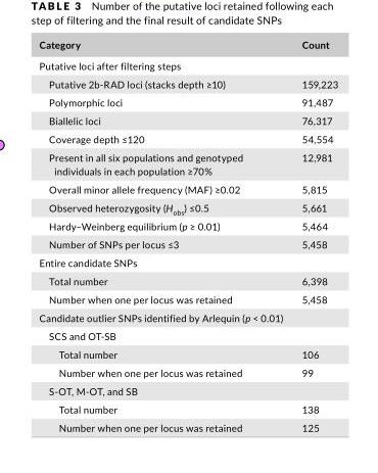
<table><thead><tr><td>Category</td><td>Count</td></tr></thead><tbody><tr><td colspan="2">Putative loci after filtering steps</td></tr><tr><td>Putative 2b- RAD loci (stacks depth ≥10)</td><td>159,223</td></tr><tr><td>Polymorphic loci</td><td>91,487</td></tr><tr><td>Biallelic loci</td><td>76,317</td></tr><tr><td>Coverage depth ≤120</td><td>54,554</td></tr><tr><td>Present in all six populations and genotyped individuals in each population ≥70%</td><td>12,981</td></tr><tr><td>Overall minor allele frequency (MAF) ≥0.02</td><td>5,815</td></tr><tr><td>Observed heterozygosity (H<sub>obs</sub>) ≤0.5</td><td>5,661</td></tr><tr><td>Hardy–Weinberg equilibrium (p ≥ 0.01)</td><td>5,464</td></tr><tr><td>Number of SNPs per locus ≤3</td><td>5,458</td></tr><tr><td colspan="2">Entire candidate SNPs</td></tr><tr><td>Total number</td><td>6,398</td></tr><tr><td>Number when one per locus was retained</td><td>5,458</td></tr><tr><td colspan="2">Candidate outlier SNPs identified by Arlequin (p &lt; 0.01)</td></tr><tr><td colspan="2">SCS and OT- SB</td></tr><tr><td>Total number</td><td>106</td></tr><tr><td>Number when one per locus was retained</td><td>99</td></tr><tr><td colspan="2">S- OT, M- OT, and SB</td></tr><tr><td>Total number</td><td>138</td></tr><tr><td>Number when one per locus was retained</td><td>125</td></tr></tbody></table>